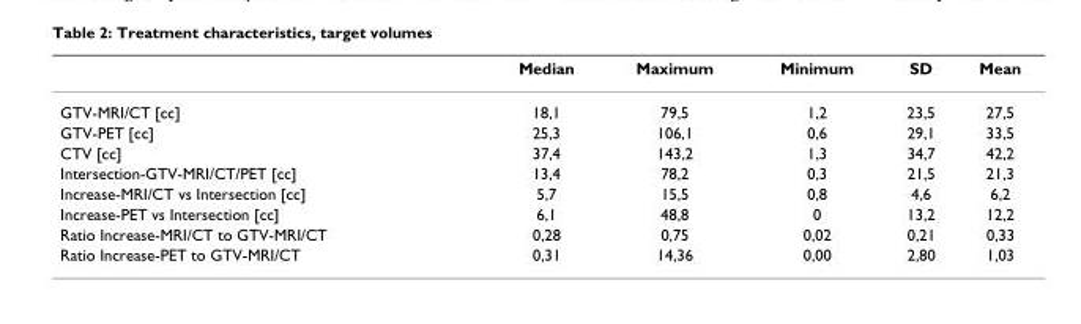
<table><thead><tr><td></td><td>Median</td><td>Maximum</td><td>Minimum</td><td>SD</td><td>Mean</td></tr></thead><tbody><tr><td>GTV-MRI/CT [cc]</td><td>18,1</td><td>79,5</td><td>1,2</td><td>23,5</td><td>27,5</td></tr><tr><td>GTV-PET [cc]</td><td>25,3</td><td>106,1</td><td>0,6</td><td>29,1</td><td>33,5</td></tr><tr><td>CTV [cc]</td><td>37,4</td><td>143,2</td><td>1,3</td><td>34,7</td><td>42,2</td></tr><tr><td>Intersection-GTV-MRI/CT/PET [cc]</td><td>13,4</td><td>78,2</td><td>0,3</td><td>21,5</td><td>21,3</td></tr><tr><td>Increase-MRI/CT vs Intersection [cc]</td><td>5,7</td><td>15,5</td><td>0,8</td><td>4,6</td><td>6,2</td></tr><tr><td>Increase-PET vs Intersection [cc]</td><td>6,1</td><td>48,8</td><td>0</td><td>13,2</td><td>12,2</td></tr><tr><td>Ratio Increase-MRI/CT to GTV-MRI/CT</td><td>0,28</td><td>0,75</td><td>0,02</td><td>0,21</td><td>0,33</td></tr><tr><td>Ratio Increase-PET to GTV-MRI/CT</td><td>0,31</td><td>14,36</td><td>0,00</td><td>2,80</td><td>1,03</td></tr></tbody></table>